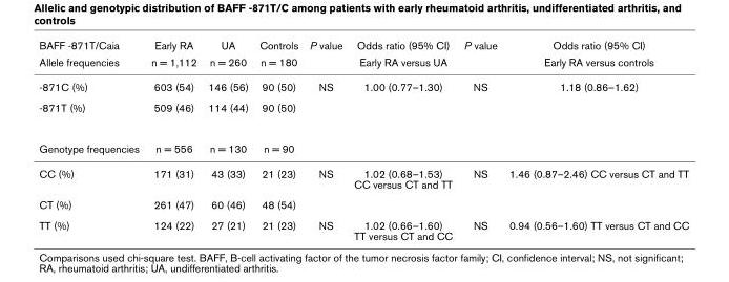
<table><thead><tr><td rowspan="2">BAFF -871T/Caia Allele frequencies</td><td rowspan="2">Early RA n = 1,112</td><td rowspan="2">UA n = 260</td><td rowspan="2">Controls n = 180</td><td rowspan="2">P value</td><td rowspan="2">Odds ratio (95% CI) Early RA versus UA</td><td rowspan="2">P value</td><td rowspan="2">Odds ratio (95% CI) Early RA versus controls</td></tr><tr></tr></thead><tbody><tr><td>-871C (%)</td><td>603 (54)</td><td>146 (56)</td><td>90 (50)</td><td>NS</td><td>1.00 (0.77–1.30)</td><td>NS</td><td>1.18 (0.86–1.62)</td></tr><tr><td>-871T (%)</td><td>509 (46)</td><td>114 (44)</td><td>90 (50)</td><td></td><td></td><td></td><td></td></tr><tr><td>Genotype frequencies</td><td>n = 556</td><td>n = 130</td><td>n = 90</td><td></td><td></td><td></td><td></td></tr><tr><td>CC (%)</td><td>171 (31)</td><td>43 (33)</td><td>21 (23)</td><td>NS</td><td>1.02 (0.68–1.53) CC versus CT and TT</td><td>NS</td><td>1.46 (0.87–2.46) CC versus CT and TT</td></tr><tr><td>CT (%)</td><td>261 (47)</td><td>60 (46)</td><td>48 (54)</td><td></td><td></td><td></td><td></td></tr><tr><td>TT (%)</td><td>124 (22)</td><td>27 (21)</td><td>21 (23)</td><td>NS</td><td>1.02 (0.66–1.60) TT versus CT and CC</td><td>NS</td><td>0.94 (0.56–1.60) TT versus CT and CC</td></tr></tbody></table>